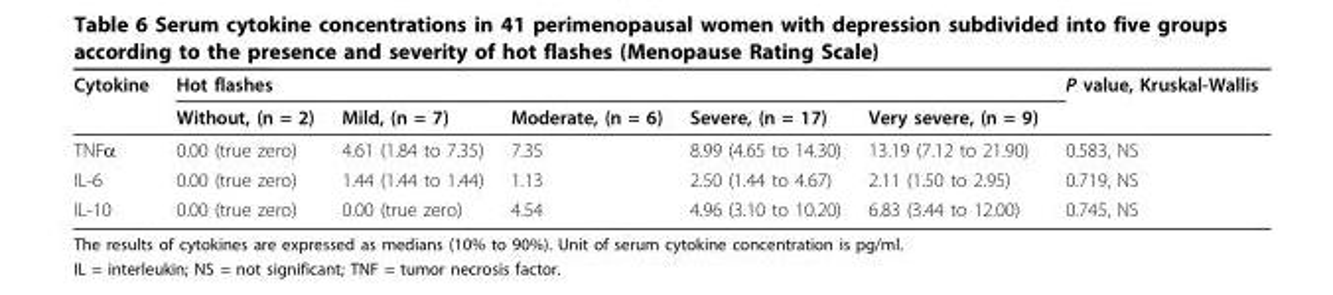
<table><thead><tr><td rowspan="2">Cytokine</td><td colspan="5">Hot flashes</td><td rowspan="2">P value, Kruskal-Wallis</td></tr><tr><td>Without, (n = 2)</td><td>Mild, (n = 7)</td><td>Moderate, (n = 6)</td><td>Severe, (n = 17)</td><td>Very severe, (n = 9)</td></tr></thead><tbody><tr><td>TNFα</td><td>0.00 (true zero)</td><td>4.61 (1.84 to 7.35)</td><td>7.35</td><td>8.99 (4.65 to 14.30)</td><td>13.19 (7.12 to 21.90)</td><td>0.583, NS</td></tr><tr><td>IL-6</td><td>0.00 (true zero)</td><td>1.44 (1.44 to 1.44)</td><td>1.13</td><td>2.50 (1.44 to 4.67)</td><td>2.11 (1.50 to 2.95)</td><td>0.719, NS</td></tr><tr><td>IL-10</td><td>0.00 (true zero)</td><td>0.00 (true zero)</td><td>4.54</td><td>4.96 (3.10 to 10.20)</td><td>6.83 (3.44 to 12.00)</td><td>0.745, NS</td></tr></tbody></table>